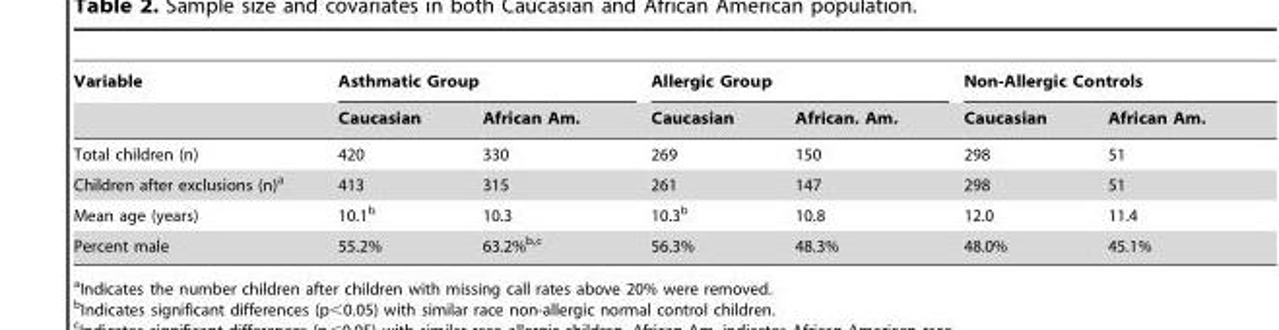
<table><thead><tr><td rowspan="2">Variable</td><td colspan="2">Asthmatic Group</td><td colspan="2">Allergic Group</td><td colspan="2">Non-Allergic Controls</td></tr><tr><td>Caucasian</td><td>African Am.</td><td>Caucasian</td><td>African. Am.</td><td>Caucasian</td><td>African Am.</td></tr></thead><tbody><tr><td>Total children (n)</td><td>420</td><td>330</td><td>269</td><td>150</td><td>298</td><td>51</td></tr><tr><td>Children after exclusions (n)<sup>a</sup></td><td>413</td><td>315</td><td>261</td><td>147</td><td>298</td><td>51</td></tr><tr><td>Mean age (years)</td><td>10.1<sup>b</sup></td><td>10.3</td><td>10.3<sup>b</sup></td><td>10.8</td><td>12.0</td><td>11.4</td></tr><tr><td>Percent male</td><td>55.2%</td><td>63.2%<sup>b,</sup>c</td><td>56.3%</td><td>48.3%</td><td>48.0%</td><td>45.1%</td></tr></tbody></table>